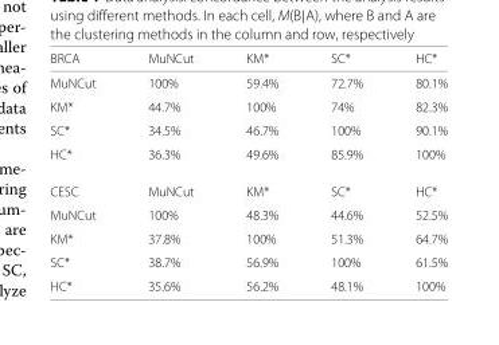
<table><thead><tr><td>BRCA</td><td>MuNCut</td><td>KM*</td><td>SC*</td><td>HC*</td></tr></thead><tbody><tr><td>MuNCut</td><td>100%</td><td>59.4%</td><td>72.7%</td><td>80.1%</td></tr><tr><td>KM*</td><td>44.7%</td><td>100%</td><td>74%</td><td>82.3%</td></tr><tr><td>SC*</td><td>34.5%</td><td>46.7%</td><td>100%</td><td>90.1%</td></tr><tr><td>HC*</td><td>36.3%</td><td>49.6%</td><td>85.9%</td><td>100%</td></tr><tr><td>CESC</td><td>MuNCut</td><td>KM*</td><td>SC*</td><td>HC*</td></tr><tr><td>MuNCut</td><td>100%</td><td>48.3%</td><td>44.6%</td><td>52.5%</td></tr><tr><td>KM*</td><td>37.8%</td><td>100%</td><td>51.3%</td><td>64.7%</td></tr><tr><td>SC*</td><td>38.7%</td><td>56.9%</td><td>100%</td><td>61.5%</td></tr><tr><td>HC*</td><td>35.6%</td><td>56.2%</td><td>48.1%</td><td>100%</td></tr></tbody></table>